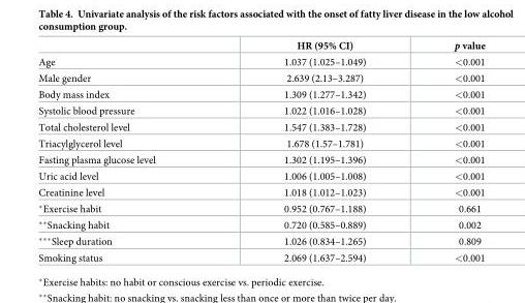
<table><thead><tr><td></td><td>HR (95% CI)</td><td>p value</td></tr></thead><tbody><tr><td>Age</td><td>1.037 (1.025–1.049)</td><td>&lt;0.001</td></tr><tr><td>Male gender</td><td>2.639 (2.13–3.287)</td><td>&lt;0.001</td></tr><tr><td>Body mass index</td><td>1.309 (1.277–1.342)</td><td>&lt;0.001</td></tr><tr><td>Systolic blood pressure</td><td>1.022 (1.016–1.028)</td><td>&lt;0.001</td></tr><tr><td>Total cholesterol level</td><td>1.547 (1.383–1.728)</td><td>&lt;0.001</td></tr><tr><td>Triacylglycerol level</td><td>1.678 (1.57–1.781)</td><td>&lt;0.001</td></tr><tr><td>Fasting plasma glucose level</td><td>1.302 (1.195–1.396)</td><td>&lt;0.001</td></tr><tr><td>Uric acid level</td><td>1.006 (1.005–1.008)</td><td>&lt;0.001</td></tr><tr><td>Creatinine level</td><td>1.018 (1.012–1.023)</td><td>&lt;0.001</td></tr><tr><td>*Exercise habit</td><td>0.952 (0.767–1.188)</td><td>0.661</td></tr><tr><td>**Snacking habit</td><td>0.720 (0.585–0.889)</td><td>0.002</td></tr><tr><td>***Sleep duration</td><td>1.026 (0.834–1.265)</td><td>0.809</td></tr><tr><td>Smoking status</td><td>2.069 (1.637–2.594)</td><td>&lt;0.001</td></tr></tbody></table>